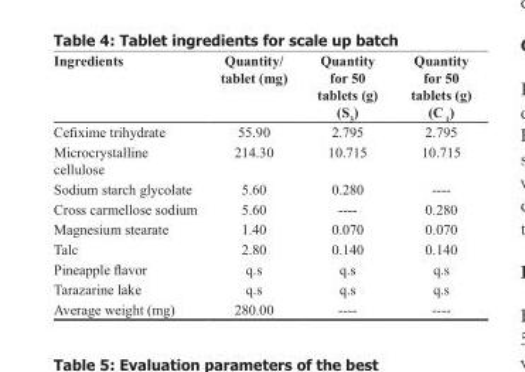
<table><thead><tr><td>Ingredients</td><td>Quantity/ tablet (mg)</td><td>Quantity for 50 tablets (g) (S<sub>3</sub>)</td><td>Quantity for 50 tablets (g) (C <sub>1</sub>)</td></tr></thead><tbody><tr><td>Cefixime trihydrate</td><td>55.90</td><td>2.795</td><td>2.795</td></tr><tr><td>Microcrystalline cellulose</td><td>214.30</td><td>10.715</td><td>10.715</td></tr><tr><td>Sodium starch glycolate</td><td>5.60</td><td>0.280</td><td>----</td></tr><tr><td>Cross carmellose sodium</td><td>5.60</td><td>----</td><td>0.280</td></tr><tr><td>Magnesium stearate</td><td>1.40</td><td>0.070</td><td>0.070</td></tr><tr><td>Talc</td><td>2.80</td><td>0.140</td><td>0.140</td></tr><tr><td>Pineapple flavor</td><td>q.s</td><td>q.s</td><td>q.s</td></tr><tr><td>Tarazarine lake</td><td>q.s</td><td>q.s</td><td>q.s</td></tr><tr><td>Average weight (mg)</td><td>280.00</td><td>----</td><td>----</td></tr></tbody></table>